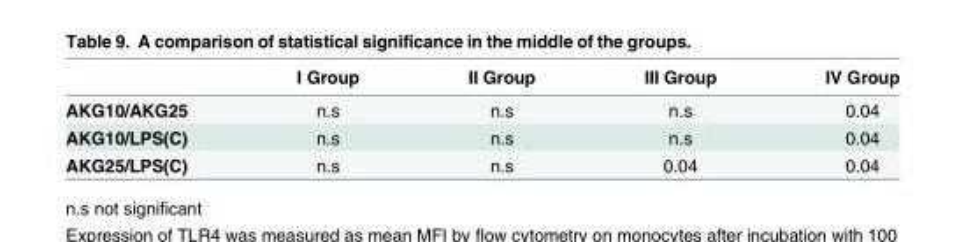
<table><thead><tr><td></td><td>I Group</td><td>II Group</td><td>III Group</td><td>IV Group</td></tr></thead><tbody><tr><td>AKG10/AKG25</td><td>n.s</td><td>n.s</td><td>n.s</td><td>0.04</td></tr><tr><td>AKG10/LPS(C)</td><td>n.s</td><td>n.s</td><td>n.s</td><td>0.04</td></tr><tr><td>AKG25/LPS(C)</td><td>n.s</td><td>n.s</td><td>0.04</td><td>0.04</td></tr></tbody></table>